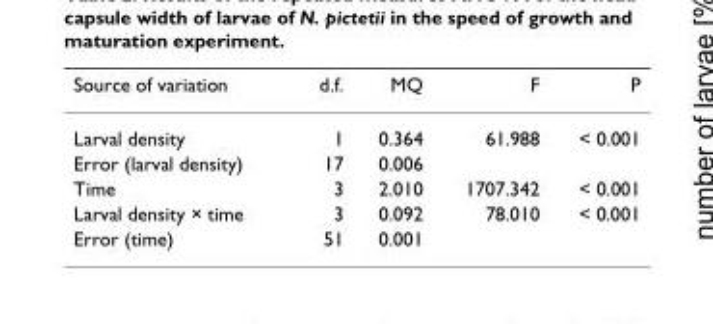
<table><thead><tr><td>Source of variation</td><td>d.f.</td><td>MQ</td><td>F</td><td>P</td></tr></thead><tbody><tr><td>Larval density</td><td>1</td><td>0.364</td><td>61.988</td><td>&lt; 0.001</td></tr><tr><td>Error (larval density)</td><td>17</td><td>0.006</td><td></td><td></td></tr><tr><td>Time</td><td>3</td><td>2.010</td><td>1707.342</td><td>&lt; 0.001</td></tr><tr><td>Larval density × time</td><td>3</td><td>0.092</td><td>78.010</td><td>&lt; 0.001</td></tr><tr><td>Error (time)</td><td>51</td><td>0.001</td><td></td><td></td></tr></tbody></table>